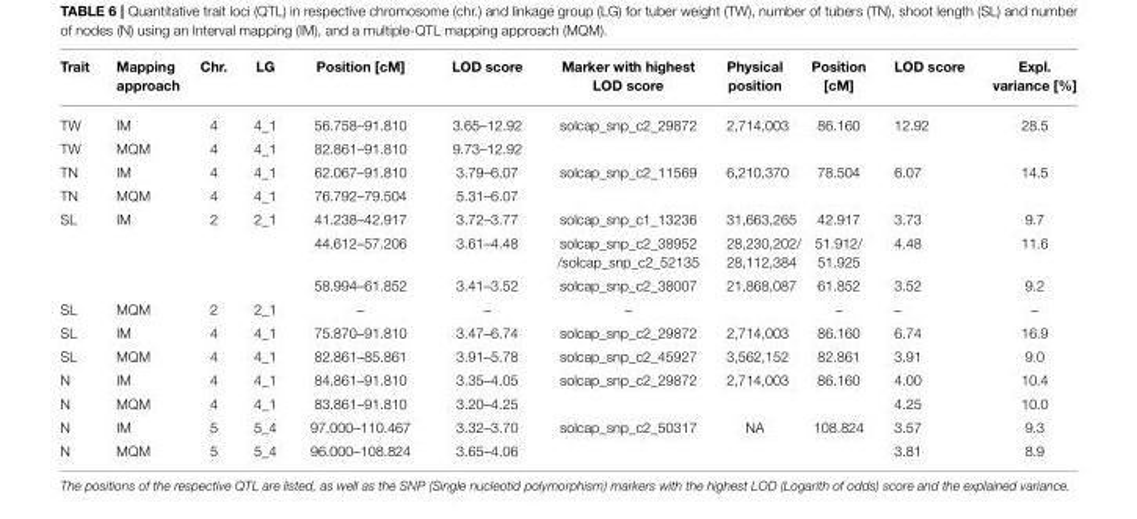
<table><thead><tr><td>Trait</td><td>Mapping approach</td><td>Chr.</td><td>LG</td><td>Position [cM]</td><td>LOD score</td><td>Marker with highest LOD score</td><td>Physical position</td><td>Position [cM]</td><td>LOD score</td><td>Expl. variance [%]</td></tr></thead><tbody><tr><td>TW</td><td>IM</td><td>4</td><td>4_1</td><td>56.758–91.810</td><td>3.65–12.92</td><td>solcap_snp_c2_29872</td><td>2,714,003</td><td>86.160</td><td>12.92</td><td>28.5</td></tr><tr><td>TW</td><td>MQM</td><td>4</td><td>4_1</td><td>82.861–91.810</td><td>9.73–12.92</td><td></td><td></td><td></td><td></td><td></td></tr><tr><td>TN</td><td>IM</td><td>4</td><td>4_1</td><td>62.067–91.810</td><td>3.79–6.07</td><td>solcap_snp_c2_11569</td><td>6,210,370</td><td>78.504</td><td>6.07</td><td>14.5</td></tr><tr><td>TN</td><td>MQM</td><td>4</td><td>4_1</td><td>76.792–79.504</td><td>5.31–6.07</td><td></td><td></td><td></td><td></td><td></td></tr><tr><td rowspan="3">SL</td><td>IM</td><td>2</td><td>2_1</td><td>41.238–42.917</td><td>3.72–3.77</td><td>solcap_snp_c1_13236</td><td>31,663,265</td><td>42.917</td><td>3.73</td><td>9.7</td></tr><tr><td></td><td></td><td></td><td>44.612–57.206</td><td>3.61–4.48</td><td>solcap_snp_c2_38952 /solcap_snp_c2_52135</td><td>28,230,202/ 28,112,384</td><td>51.912/ 51.925</td><td>4.48</td><td>11.6</td></tr><tr><td></td><td></td><td></td><td>58.994–61.852</td><td>3.41–3.52</td><td>solcap_snp_c2_38007</td><td>21,868,087</td><td>61.852</td><td>3.52</td><td>9.2</td></tr><tr><td>SL</td><td>MQM</td><td>2</td><td>2_1</td><td>–</td><td>–</td><td>–</td><td></td><td>–</td><td>–</td><td>–</td></tr><tr><td>SL</td><td>IM</td><td>4</td><td>4_1</td><td>75.870–91.810</td><td>3.47–6.74</td><td>solcap_snp_c2_29872</td><td>2,714,003</td><td>86.160</td><td>6.74</td><td>16.9</td></tr><tr><td>SL</td><td>MQM</td><td>4</td><td>4_1</td><td>82.861–85.861</td><td>3.91–5.78</td><td>solcap_snp_c2_45927</td><td>3,562,152</td><td>82.861</td><td>3.91</td><td>9.0</td></tr><tr><td>N</td><td>IM</td><td>4</td><td>4_1</td><td>84.861–91.810</td><td>3.35–4.05</td><td>solcap_snp_c2_29872</td><td>2,714,003</td><td>86.160</td><td>4.00</td><td>10.4</td></tr><tr><td>N</td><td>MQM</td><td>4</td><td>4_1</td><td>83.861–91.810</td><td>3.20–4.25</td><td></td><td></td><td></td><td>4.25</td><td>10.0</td></tr><tr><td>N</td><td>IM</td><td>5</td><td>5_4</td><td>97.000–110.467</td><td>3.32–3.70</td><td>solcap_snp_c2_50317</td><td>NA</td><td>108.824</td><td>3.57</td><td>9.3</td></tr><tr><td>N</td><td>MQM</td><td>5</td><td>5_4</td><td>96.000–108.824</td><td>3.65–4.06</td><td></td><td></td><td></td><td>3.81</td><td>8.9</td></tr></tbody></table>